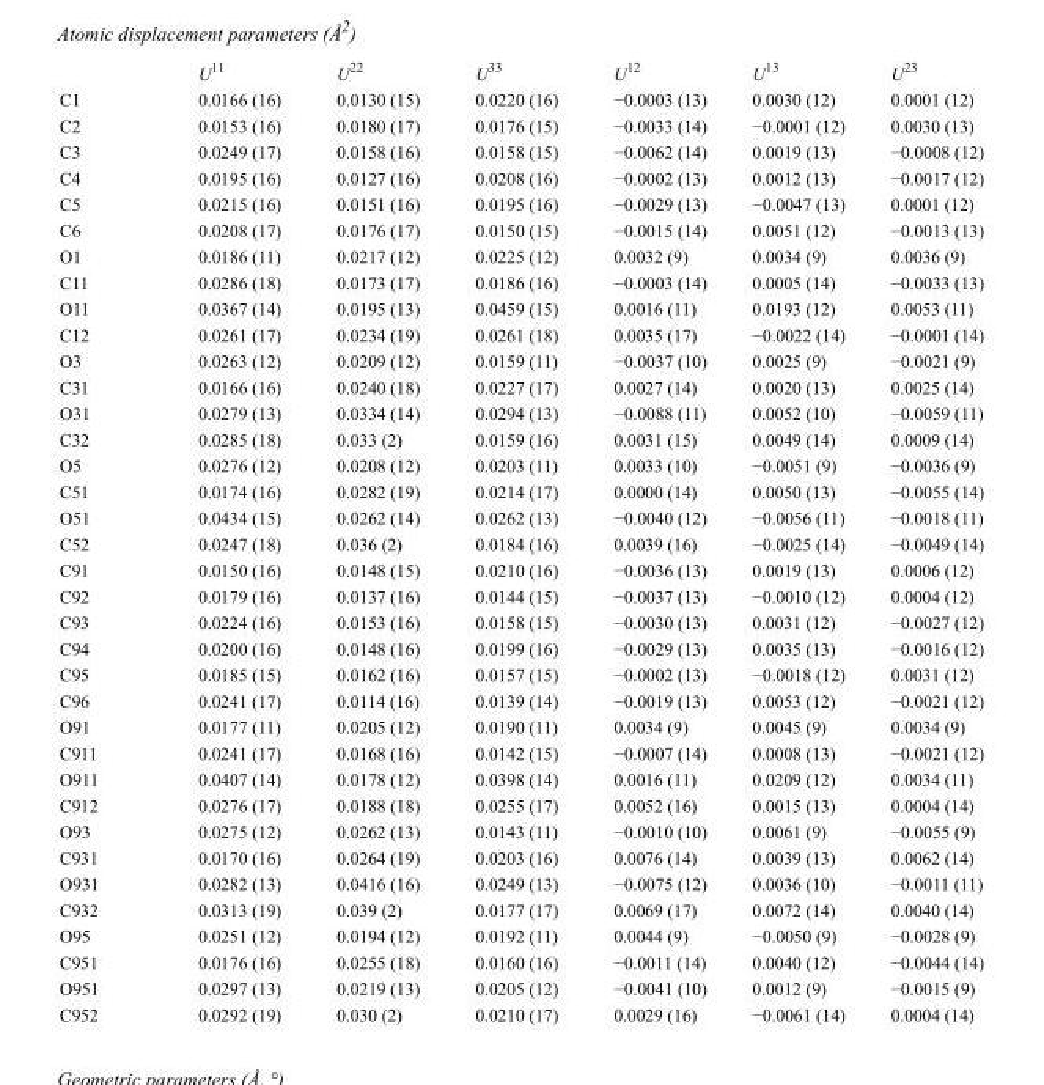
<table><thead><tr><td></td><td>U<sup>11</sup></td><td>U<sup>22</sup></td><td>U<sup>33</sup></td><td>U<sup>12</sup></td><td>U<sup>13</sup></td><td>U<sup>23</sup></td></tr></thead><tbody><tr><td>C1</td><td>0.0166 (16)</td><td>0.0130 (15)</td><td>0.0220 (16)</td><td>−0.0003 (13)</td><td>0.0030 (12)</td><td>0.0001 (12)</td></tr><tr><td>C2</td><td>0.0153 (16)</td><td>0.0180 (17)</td><td>0.0176 (15)</td><td>−0.0033 (14)</td><td>−0.0001 (12)</td><td>0.0030 (13)</td></tr><tr><td>C3</td><td>0.0249 (17)</td><td>0.0158 (16)</td><td>0.0158 (15)</td><td>−0.0062 (14)</td><td>0.0019 (13)</td><td>−0.0008 (12)</td></tr><tr><td>C4</td><td>0.0195 (16)</td><td>0.0127 (16)</td><td>0.0208 (16)</td><td>−0.0002 (13)</td><td>0.0012 (13)</td><td>−0.0017 (12)</td></tr><tr><td>C5</td><td>0.0215 (16)</td><td>0.0151 (16)</td><td>0.0195 (16)</td><td>−0.0029 (13)</td><td>−0.0047 (13)</td><td>0.0001 (12)</td></tr><tr><td>C6</td><td>0.0208 (17)</td><td>0.0176 (17)</td><td>0.0150 (15)</td><td>−0.0015 (14)</td><td>0.0051 (12)</td><td>−0.0013 (13)</td></tr><tr><td>O1</td><td>0.0186 (11)</td><td>0.0217 (12)</td><td>0.0225 (12)</td><td>0.0032 (9)</td><td>0.0034 (9)</td><td>0.0036 (9)</td></tr><tr><td>C11</td><td>0.0286 (18)</td><td>0.0173 (17)</td><td>0.0186 (16)</td><td>−0.0003 (14)</td><td>0.0005 (14)</td><td>−0.0033 (13)</td></tr><tr><td>O11</td><td>0.0367 (14)</td><td>0.0195 (13)</td><td>0.0459 (15)</td><td>0.0016 (11)</td><td>0.0193 (12)</td><td>0.0053 (11)</td></tr><tr><td>C12</td><td>0.0261 (17)</td><td>0.0234 (19)</td><td>0.0261 (18)</td><td>0.0035 (17)</td><td>−0.0022 (14)</td><td>−0.0001 (14)</td></tr><tr><td>O3</td><td>0.0263 (12)</td><td>0.0209 (12)</td><td>0.0159 (11)</td><td>−0.0037 (10)</td><td>0.0025 (9)</td><td>−0.0021 (9)</td></tr><tr><td>C31</td><td>0.0166 (16)</td><td>0.0240 (18)</td><td>0.0227 (17)</td><td>0.0027 (14)</td><td>0.0020 (13)</td><td>0.0025 (14)</td></tr><tr><td>O31</td><td>0.0279 (13)</td><td>0.0334 (14)</td><td>0.0294 (13)</td><td>−0.0088 (11)</td><td>0.0052 (10)</td><td>−0.0059 (11)</td></tr><tr><td>C32</td><td>0.0285 (18)</td><td>0.033 (2)</td><td>0.0159 (16)</td><td>0.0031 (15)</td><td>0.0049 (14)</td><td>0.0009 (14)</td></tr><tr><td>O5</td><td>0.0276 (12)</td><td>0.0208 (12)</td><td>0.0203 (11)</td><td>0.0033 (10)</td><td>−0.0051 (9)</td><td>−0.0036 (9)</td></tr><tr><td>C51</td><td>0.0174 (16)</td><td>0.0282 (19)</td><td>0.0214 (17)</td><td>0.0000 (14)</td><td>0.0050 (13)</td><td>−0.0055 (14)</td></tr><tr><td>O51</td><td>0.0434 (15)</td><td>0.0262 (14)</td><td>0.0262 (13)</td><td>−0.0040 (12)</td><td>−0.0056 (11)</td><td>−0.0018 (11)</td></tr><tr><td>C52</td><td>0.0247 (18)</td><td>0.036 (2)</td><td>0.0184 (16)</td><td>0.0039 (16)</td><td>−0.0025 (14)</td><td>−0.0049 (14)</td></tr><tr><td>C91</td><td>0.0150 (16)</td><td>0.0148 (15)</td><td>0.0210 (16)</td><td>−0.0036 (13)</td><td>0.0019 (13)</td><td>0.0006 (12)</td></tr><tr><td>C92</td><td>0.0179 (16)</td><td>0.0137 (16)</td><td>0.0144 (15)</td><td>−0.0037 (13)</td><td>−0.0010 (12)</td><td>0.0004 (12)</td></tr><tr><td>C93</td><td>0.0224 (16)</td><td>0.0153 (16)</td><td>0.0158 (15)</td><td>−0.0030 (13)</td><td>0.0031 (12)</td><td>−0.0027 (12)</td></tr><tr><td>C94</td><td>0.0200 (16)</td><td>0.0148 (16)</td><td>0.0199 (16)</td><td>−0.0029 (13)</td><td>0.0035 (13)</td><td>−0.0016 (12)</td></tr><tr><td>C95</td><td>0.0185 (15)</td><td>0.0162 (16)</td><td>0.0157 (15)</td><td>−0.0002 (13)</td><td>−0.0018 (12)</td><td>0.0031 (12)</td></tr><tr><td>C96</td><td>0.0241 (17)</td><td>0.0114 (16)</td><td>0.0139 (14)</td><td>−0.0019 (13)</td><td>0.0053 (12)</td><td>−0.0021 (12)</td></tr><tr><td>O91</td><td>0.0177 (11)</td><td>0.0205 (12)</td><td>0.0190 (11)</td><td>0.0034 (9)</td><td>0.0045 (9)</td><td>0.0034 (9)</td></tr><tr><td>C911</td><td>0.0241 (17)</td><td>0.0168 (16)</td><td>0.0142 (15)</td><td>−0.0007 (14)</td><td>0.0008 (13)</td><td>−0.0021 (12)</td></tr><tr><td>O911</td><td>0.0407 (14)</td><td>0.0178 (12)</td><td>0.0398 (14)</td><td>0.0016 (11)</td><td>0.0209 (12)</td><td>0.0034 (11)</td></tr><tr><td>C912</td><td>0.0276 (17)</td><td>0.0188 (18)</td><td>0.0255 (17)</td><td>0.0052 (16)</td><td>0.0015 (13)</td><td>0.0004 (14)</td></tr><tr><td>O93</td><td>0.0275 (12)</td><td>0.0262 (13)</td><td>0.0143 (11)</td><td>−0.0010 (10)</td><td>0.0061 (9)</td><td>−0.0055 (9)</td></tr><tr><td>C931</td><td>0.0170 (16)</td><td>0.0264 (19)</td><td>0.0203 (16)</td><td>0.0076 (14)</td><td>0.0039 (13)</td><td>0.0062 (14)</td></tr><tr><td>O931</td><td>0.0282 (13)</td><td>0.0416 (16)</td><td>0.0249 (13)</td><td>−0.0075 (12)</td><td>0.0036 (10)</td><td>−0.0011 (11)</td></tr><tr><td>C932</td><td>0.0313 (19)</td><td>0.039 (2)</td><td>0.0177 (17)</td><td>0.0069 (17)</td><td>0.0072 (14)</td><td>0.0040 (14)</td></tr><tr><td>O95</td><td>0.0251 (12)</td><td>0.0194 (12)</td><td>0.0192 (11)</td><td>0.0044 (9)</td><td>−0.0050 (9)</td><td>−0.0028 (9)</td></tr><tr><td>C951</td><td>0.0176 (16)</td><td>0.0255 (18)</td><td>0.0160 (16)</td><td>−0.0011 (14)</td><td>0.0040 (12)</td><td>−0.0044 (14)</td></tr><tr><td>O951</td><td>0.0297 (13)</td><td>0.0219 (13)</td><td>0.0205 (12)</td><td>−0.0041 (10)</td><td>0.0012 (9)</td><td>−0.0015 (9)</td></tr><tr><td>C952</td><td>0.0292 (19)</td><td>0.030 (2)</td><td>0.0210 (17)</td><td>0.0029 (16)</td><td>−0.0061 (14)</td><td>0.0004 (14)</td></tr></tbody></table>